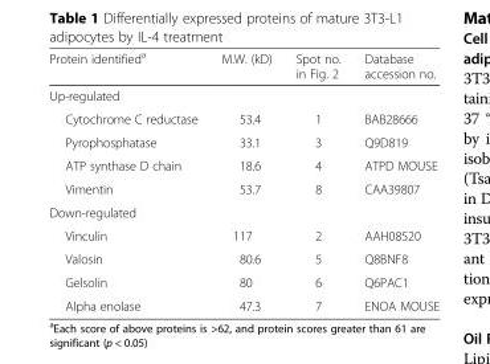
<table><thead><tr><td>Protein identified<sup>a</sup></td><td>M.W. (kD)</td><td>Spot no. in Fig. 2</td><td>Database accession no.</td></tr></thead><tbody><tr><td colspan="4">Up-regulated</td></tr><tr><td>Cytochrome C reductase</td><td>53.4</td><td>1</td><td>BAB28666</td></tr><tr><td>Pyrophosphatase</td><td>33.1</td><td>3</td><td>Q9D819</td></tr><tr><td>ATP synthase D chain</td><td>18.6</td><td>4</td><td>ATPD MOUSE</td></tr><tr><td>Vimentin</td><td>53.7</td><td>8</td><td>CAA39807</td></tr><tr><td colspan="4">Down-regulated</td></tr><tr><td>Vinculin</td><td>117</td><td>2</td><td>AAH08520</td></tr><tr><td>Valosin</td><td>80.6</td><td>5</td><td>Q8BNF8</td></tr><tr><td>Gelsolin</td><td>80</td><td>6</td><td>Q6PAC1</td></tr><tr><td>Alpha enolase</td><td>47.3</td><td>7</td><td>ENOA MOUSE</td></tr></tbody></table>